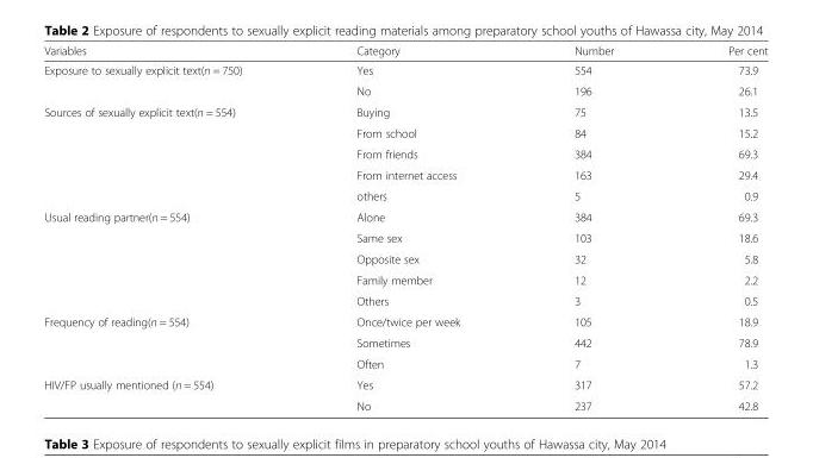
<table><thead><tr><td>Variables</td><td>Category</td><td>Number</td><td>Per cent</td></tr></thead><tbody><tr><td rowspan="2">Exposure to sexually explicit text(n = 750)</td><td>Yes</td><td>554</td><td>73.9</td></tr><tr><td>No</td><td>196</td><td>26.1</td></tr><tr><td rowspan="5">Sources of sexually explicit text(n = 554)</td><td>Buying</td><td>75</td><td>13.5</td></tr><tr><td>From school</td><td>84</td><td>15.2</td></tr><tr><td>From friends</td><td>384</td><td>69.3</td></tr><tr><td>From internet access</td><td>163</td><td>29.4</td></tr><tr><td>others</td><td>5</td><td>0.9</td></tr><tr><td rowspan="5">Usual reading partner(n = 554)</td><td>Alone</td><td>384</td><td>69.3</td></tr><tr><td>Same sex</td><td>103</td><td>18.6</td></tr><tr><td>Opposite sex</td><td>32</td><td>5.8</td></tr><tr><td>Family member</td><td>12</td><td>2.2</td></tr><tr><td>Others</td><td>3</td><td>0.5</td></tr><tr><td rowspan="3">Frequency of reading(n = 554)</td><td>Once/twice per week</td><td>105</td><td>18.9</td></tr><tr><td>Sometimes</td><td>442</td><td>78.9</td></tr><tr><td>Often</td><td>7</td><td>1.3</td></tr><tr><td rowspan="2">HIV/FP usually mentioned (n = 554)</td><td>Yes</td><td>317</td><td>57.2</td></tr><tr><td>No</td><td>237</td><td>42.8</td></tr></tbody></table>